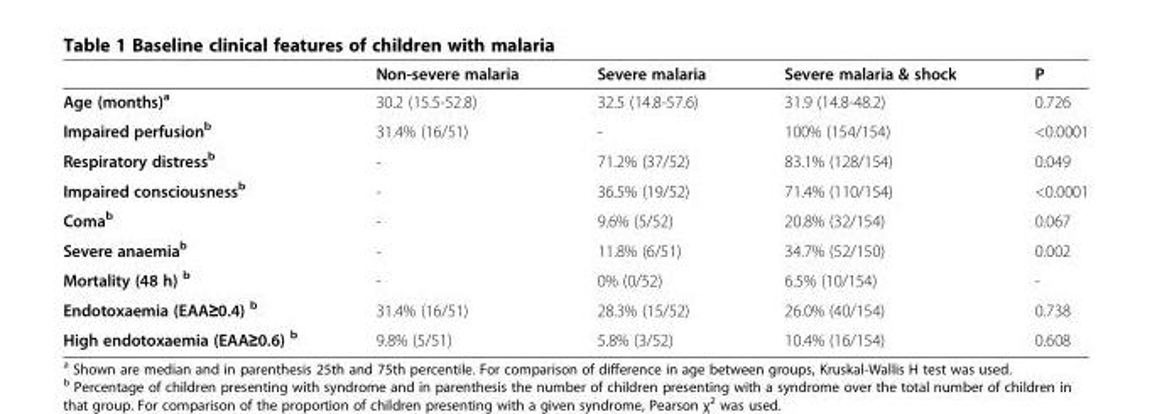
<table><thead><tr><td></td><td>Non-severe malaria</td><td>Severe malaria</td><td>Severe malaria &amp; shock</td><td>P</td></tr></thead><tbody><tr><td>Age (months)<sup>a</sup></td><td>30.2 (15.5-52.8)</td><td>32.5 (14.8-57.6)</td><td>31.9 (14.8-48.2)</td><td>0.726</td></tr><tr><td>Impaired perfusion<sup>b</sup></td><td>31.4% (16/51)</td><td>-</td><td>100% (154/154)</td><td>&lt;0.0001</td></tr><tr><td>Respiratory distress<sup>b</sup></td><td>-</td><td>71.2% (37/52)</td><td>83.1% (128/154)</td><td>0.049</td></tr><tr><td>Impaired consciousness<sup>b</sup></td><td>-</td><td>36.5% (19/52)</td><td>71.4% (110/154)</td><td>&lt;0.0001</td></tr><tr><td>Coma<sup>b</sup></td><td>-</td><td>9.6% (5/52)</td><td>20.8% (32/154)</td><td>0.067</td></tr><tr><td>Severe anaemia<sup>b</sup></td><td>-</td><td>11.8% (6/51)</td><td>34.7% (52/150)</td><td>0.002</td></tr><tr><td>Mortality (48 h) <sup>b</sup></td><td>-</td><td>0% (0/52)</td><td>6.5% (10/154)</td><td>-</td></tr><tr><td>Endotoxaemia (EAA≥0.4) <sup>b</sup></td><td>31.4% (16/51)</td><td>28.3% (15/52)</td><td>26.0% (40/154)</td><td>0.738</td></tr><tr><td>High endotoxaemia (EAA≥0.6) <sup>b</sup></td><td>9.8% (5/51)</td><td>5.8% (3/52)</td><td>10.4% (16/154)</td><td>0.608</td></tr></tbody></table>